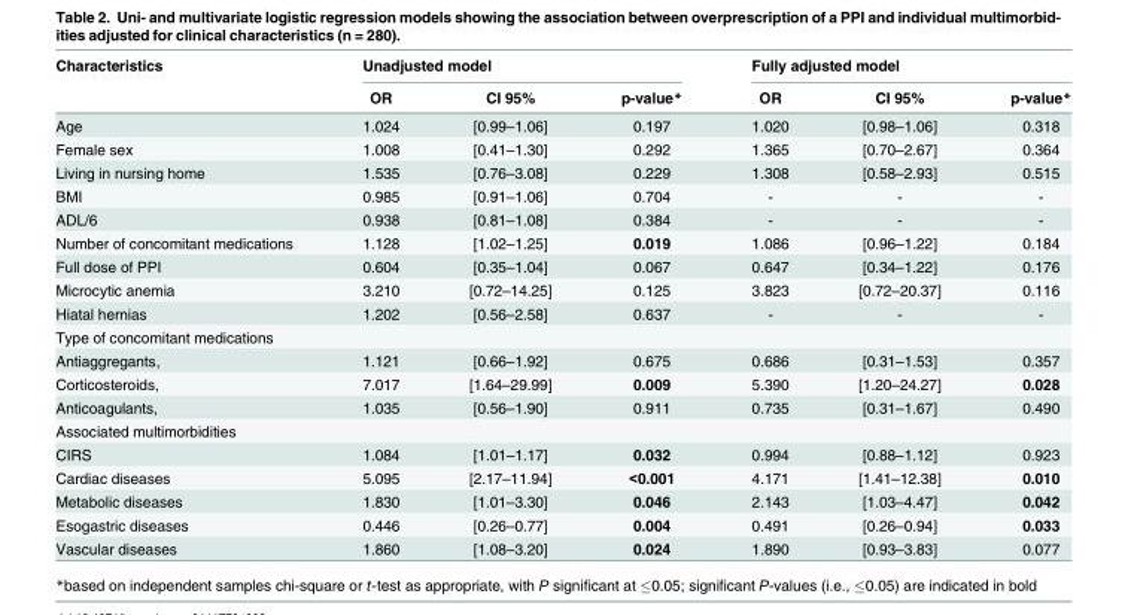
<table><thead><tr><td rowspan="2">Characteristics</td><td colspan="3">Unadjusted model</td><td colspan="3">Fully adjusted model</td></tr><tr><td>OR</td><td>CI 95%</td><td>p-value*</td><td>OR</td><td>CI 95%</td><td>p-value*</td></tr></thead><tbody><tr><td>Age</td><td>1.024</td><td>[0.99–1.06]</td><td>0.197</td><td>1.020</td><td>[0.98–1.06]</td><td>0.318</td></tr><tr><td>Female sex</td><td>1.008</td><td>[0.41–1.30]</td><td>0.292</td><td>1.365</td><td>[0.70–2.67]</td><td>0.364</td></tr><tr><td>Living in nursing home</td><td>1.535</td><td>[0.76–3.08]</td><td>0.229</td><td>1.308</td><td>[0.58–2.93]</td><td>0.515</td></tr><tr><td>BMI</td><td>0.985</td><td>[0.91–1.06]</td><td>0.704</td><td>-</td><td>-</td><td>-</td></tr><tr><td>ADL/6</td><td>0.938</td><td>[0.81–1.08]</td><td>0.384</td><td>-</td><td>-</td><td>-</td></tr><tr><td>Number of concomitant medications</td><td>1.128</td><td>[1.02–1.25]</td><td>0.019</td><td>1.086</td><td>[0.96–1.22]</td><td>0.184</td></tr><tr><td>Full dose of PPI</td><td>0.604</td><td>[0.35–1.04]</td><td>0.067</td><td>0.647</td><td>[0.34–1.22]</td><td>0.176</td></tr><tr><td>Microcytic anemia</td><td>3.210</td><td>[0.72–14.25]</td><td>0.125</td><td>3.823</td><td>[0.72–20.37]</td><td>0.116</td></tr><tr><td>Hiatal hernias</td><td>1.202</td><td>[0.56–2.58]</td><td>0.637</td><td>-</td><td>-</td><td>-</td></tr><tr><td colspan="7">Type of concomitant medications</td></tr><tr><td>Antiaggregants,</td><td>1.121</td><td>[0.66–1.92]</td><td>0.675</td><td>0.686</td><td>[0.31–1.53]</td><td>0.357</td></tr><tr><td>Corticosteroids,</td><td>7.017</td><td>[1.64–29.99]</td><td>0.009</td><td>5.390</td><td>[1.20–24.27]</td><td>0.028</td></tr><tr><td>Anticoagulants,</td><td>1.035</td><td>[0.56–1.90]</td><td>0.911</td><td>0.735</td><td>[0.31–1.67]</td><td>0.490</td></tr><tr><td colspan="7">Associated multimorbidities</td></tr><tr><td>CIRS</td><td>1.084</td><td>[1.01–1.17]</td><td>0.032</td><td>0.994</td><td>[0.88–1.12]</td><td>0.923</td></tr><tr><td>Cardiac diseases</td><td>5.095</td><td>[2.17–11.94]</td><td>&lt;0.001</td><td>4.171</td><td>[1.41–12.38]</td><td>0.010</td></tr><tr><td>Metabolic diseases</td><td>1.830</td><td>[1.01–3.30]</td><td>0.046</td><td>2.143</td><td>[1.03–4.47]</td><td>0.042</td></tr><tr><td>Esogastric diseases</td><td>0.446</td><td>[0.26–0.77]</td><td>0.004</td><td>0.491</td><td>[0.26–0.94]</td><td>0.033</td></tr><tr><td>Vascular diseases</td><td>1.860</td><td>[1.08–3.20]</td><td>0.024</td><td>1.890</td><td>[0.93–3.83]</td><td>0.077</td></tr></tbody></table>